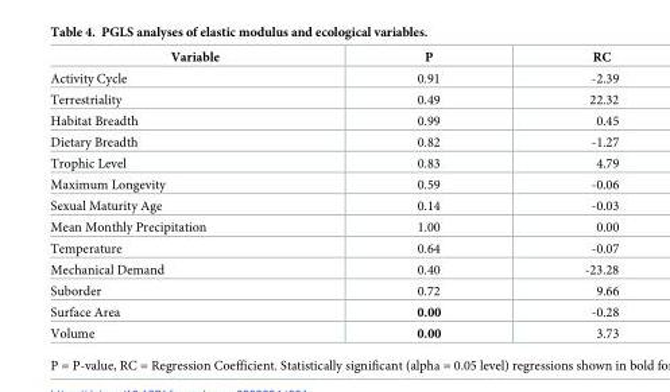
<table><thead><tr><td>Variable</td><td>P</td><td>RC</td></tr></thead><tbody><tr><td>Activity Cycle</td><td>0.91</td><td>-2.39</td></tr><tr><td>Terrestriality</td><td>0.49</td><td>22.32</td></tr><tr><td>Habitat Breadth</td><td>0.99</td><td>0.45</td></tr><tr><td>Dietary Breadth</td><td>0.82</td><td>-1.27</td></tr><tr><td>Trophic Level</td><td>0.83</td><td>4.79</td></tr><tr><td>Maximum Longevity</td><td>0.59</td><td>-0.06</td></tr><tr><td>Sexual Maturity Age</td><td>0.14</td><td>-0.03</td></tr><tr><td>Mean Monthly Precipitation</td><td>1.00</td><td>0.00</td></tr><tr><td>Temperature</td><td>0.64</td><td>-0.07</td></tr><tr><td>Mechanical Demand</td><td>0.40</td><td>-23.28</td></tr><tr><td>Suborder</td><td>0.72</td><td>9.66</td></tr><tr><td>Surface Area</td><td>0.00</td><td>-0.28</td></tr><tr><td>Volume</td><td>0.00</td><td>3.73</td></tr></tbody></table>